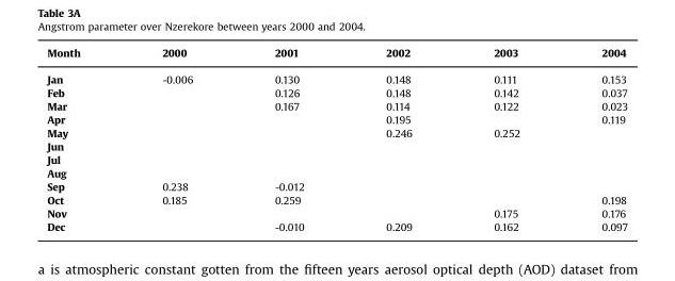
<table><thead><tr><td>Month</td><td>2000</td><td>2001</td><td>2002</td><td>2003</td><td>2004</td></tr></thead><tbody><tr><td>Jan</td><td>-0.006</td><td>0.130</td><td>0.148</td><td>0.111</td><td>0.153</td></tr><tr><td>Feb</td><td></td><td>0.126</td><td>0.148</td><td>0.142</td><td>0.037</td></tr><tr><td>Mar</td><td></td><td>0.167</td><td>0.114</td><td>0.122</td><td>0.023</td></tr><tr><td>Apr</td><td></td><td></td><td>0.195</td><td></td><td>0.119</td></tr><tr><td>May</td><td></td><td></td><td>0.246</td><td>0.252</td><td></td></tr><tr><td colspan="6">Jun</td></tr><tr><td colspan="6">Jul</td></tr><tr><td colspan="6">Aug</td></tr><tr><td>Sep</td><td>0.238</td><td>-0.012</td><td></td><td></td><td></td></tr><tr><td>Oct</td><td>0.185</td><td>0.259</td><td></td><td></td><td>0.198</td></tr><tr><td>Nov</td><td></td><td></td><td></td><td>0.175</td><td>0.176</td></tr><tr><td>Dec</td><td></td><td>-0.010</td><td>0.209</td><td>0.162</td><td>0.097</td></tr></tbody></table>